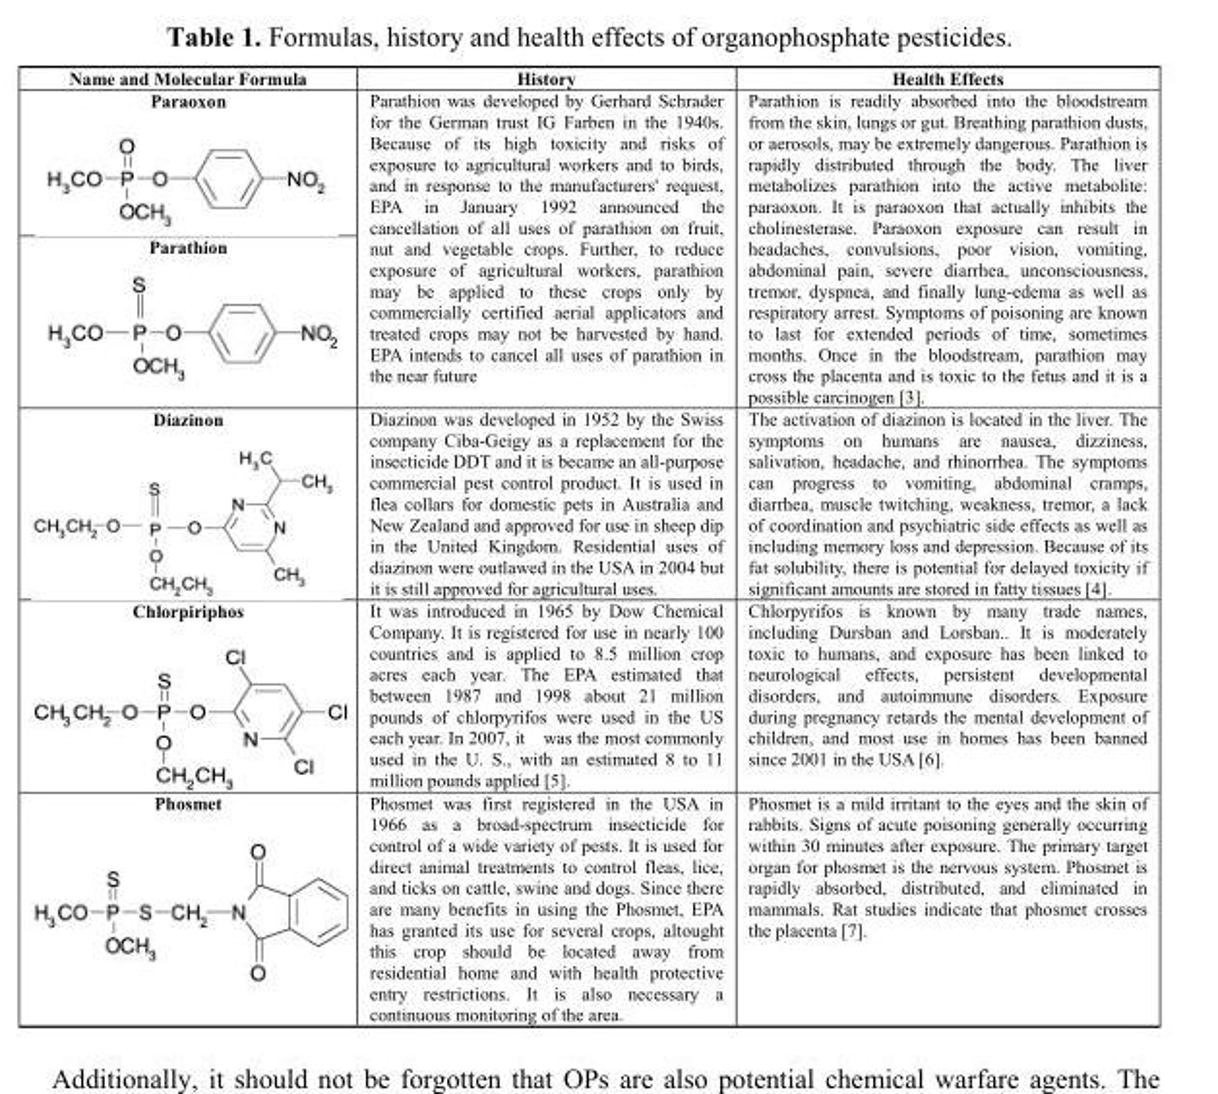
<table><thead><tr><td>Name and Molecular Formula</td><td>History</td><td>Health Effects</td></tr></thead><tbody><tr><td>Paraoxon</td><td rowspan="2">Parathion was developed by Gerhard Schrader for the German trust IG Farben in the 1940s. Because of its high toxicity and risks of exposure to agricultural workers and to birds, and in response to the manufacturers&#x27; request, EPA in January 1992 announced the cancellation of all uses of parathion on fruit, nut and vegetable crops. Further, to reduce exposure of agricultural workers, parathion may be applied to these crops only by commercially certified aerial applicators and treated crops may not be harvested by hand. EPA intends to cancel all uses of parathion in the near future</td><td rowspan="2">Parathion is readily absorbed into the bloodstream from the skin, lungs or gut. Breathing parathion dusts, or aerosols, may be extremely dangerous. Parathion is rapidly distributed through the body. The liver metabolizes parathion into the active metabolite: paraoxon. It is paraoxon that actually inhibits the cholinesterase. Paraoxon exposure can result in headaches, convulsions, poor vision, vomiting, abdominal pain, severe diarrhea, unconsciousness, tremor, dyspnea, and finally lung-edema as well as respiratory arrest. Symptoms of poisoning are known to last for extended periods of time, sometimes months. Once in the bloodstream, parathion may cross the placenta and is toxic to the fetus and it is a possible carcinogen [3].</td></tr><tr><td>Parathion</td></tr><tr><td>Diazinon</td><td>Diazinon was developed in 1952 by the Swiss company Ciba-Geigy as a replacement for the insecticide DDT and it is became an all-purpose commercial pest control product. It is used in flea collars for domestic pets in Australia and New Zealand and approved for use in sheep dip in the United Kingdom. Residential uses of diazinon were outlawed in the USA in 2004 but it is still approved for agricultural uses.</td><td>The activation of diazinon is located in the liver. The symptoms on humans are nausea, dizziness, salivation, headache, and rhinorrhea. The symptoms can progress to vomiting, abdominal cramps, diarrhea, muscle twitching, weakness, tremor, a lack of coordination and psychiatric side effects as well as including memory loss and depression. Because of its fat solubility, there is potential for delayed toxicity if significant amounts are stored in fatty tissues [4].</td></tr><tr><td>Chlorpiriphos</td><td>It was introduced in 1965 by Dow Chemical Company. It is registered for use in nearly 100 countries and is applied to 8.5 million crop acres each year. The EPA estimated that between 1987 and 1998 about 21 million pounds of chlorpyrifos were used in the US each year. In 2007, it was the most commonly used in the U. S., with an estimated 8 to 11 million pounds applied [5].</td><td>Chlorpyrifos is known by many trade names, including Dursban and Lorsban.. It is moderately toxic to humans, and exposure has been linked to neurological effects, persistent developmental disorders, and autoimmune disorders. Exposure during pregnancy retards the mental development of children, and most use in homes has been banned since 2001 in the USA [6].</td></tr><tr><td>Phosmet</td><td>Phosmet was first registered in the USA in 1966 as a broad-spectrum insecticide for control of a wide variety of pests. It is used for direct animal treatments to control fleas, lice, and ticks on cattle, swine and dogs. Since there are many benefits in using the Phosmet, EPA has granted its use for several crops, altought this crop should be located away from residential home and with health protective entry restrictions. It is also necessary a continuous monitoring of the area.</td><td>Phosmet is a mild irritant to the eyes and the skin of rabbits. Signs of acute poisoning generally occurring within 30 minutes after exposure. The primary target organ for phosmet is the nervous system. Phosmet is rapidly absorbed, distributed, and eliminated in mammals. Rat studies indicate that phosmet crosses the placenta [7].</td></tr></tbody></table>